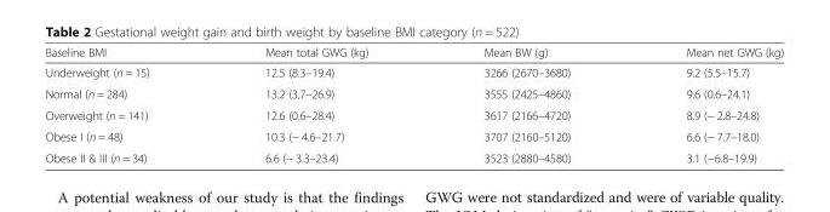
<table><thead><tr><td>Baseline BMI</td><td>Mean total GWG (kg)</td><td>Mean BW (g)</td><td>Mean net GWG (kg)</td></tr></thead><tbody><tr><td>Underweight (n = 15)</td><td>12.5 (8.3–19.4)</td><td>3266 (2670–3680)</td><td>9.2 (5.5–15.7)</td></tr><tr><td>Normal (n = 284)</td><td>13.2 (3.7–26.9)</td><td>3555 (2425–4860)</td><td>9.6 (0.6–24.1)</td></tr><tr><td>Overweight (n = 141)</td><td>12.6 (0.6–28.4)</td><td>3617 (2166–4720)</td><td>8.9 (− 2.8–24.8)</td></tr><tr><td>Obese I (n = 48)</td><td>10.3 (− 4.6–21.7)</td><td>3707 (2160–5120)</td><td>6.6 (− 7.7–18.0)</td></tr><tr><td>Obese II &amp; III (n = 34)</td><td>6.6 (− 3.3–23.4)</td><td>3523 (2880–4580)</td><td>3.1 (−6.8–19.9)</td></tr></tbody></table>